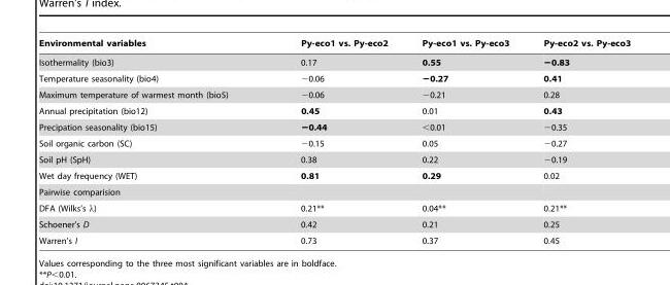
<table><thead><tr><td>Environmental variables</td><td>Py-eco1 vs. Py-eco2</td><td>Py-eco1 vs. Py-eco3</td><td>Py-eco2 vs. Py-eco3</td></tr></thead><tbody><tr><td>Isothermality (bio3)</td><td>0.17</td><td>0.55</td><td>−0.83</td></tr><tr><td>Temperature seasonality (bio4)</td><td>−0.06</td><td>−0.27</td><td>0.41</td></tr><tr><td>Maximum temperature of warmest month (bio5)</td><td>−0.06</td><td>−0.21</td><td>0.28</td></tr><tr><td>Annual precipitation (bio12)</td><td>0.45</td><td>0.01</td><td>0.43</td></tr><tr><td>Precipation seasonality (bio15)</td><td>−0.44</td><td>&lt;0.01</td><td>−0.35</td></tr><tr><td>Soil organic carbon (SC)</td><td>−0.15</td><td>0.05</td><td>−0.27</td></tr><tr><td>Soil pH (SpH)</td><td>0.38</td><td>0.22</td><td>−0.19</td></tr><tr><td>Wet day frequency (WET)</td><td>0.81</td><td>0.29</td><td>0.02</td></tr><tr><td colspan="4">Pairwise comparision</td></tr><tr><td>DFA (Wilks’s λ)</td><td>0.21**</td><td>0.04**</td><td>0.21**</td></tr><tr><td>Schoener’s D</td><td>0.42</td><td>0.21</td><td>0.25</td></tr><tr><td>Warren’s I</td><td>0.73</td><td>0.37</td><td>0.45</td></tr></tbody></table>